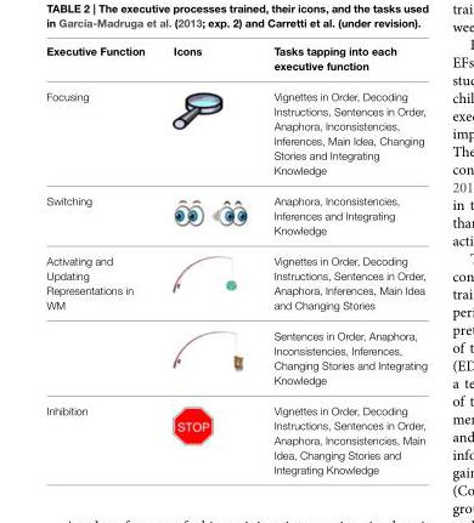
<table><thead><tr><td>Executive Function</td><td>Icons</td><td>Tasks tapping into each executive function</td></tr></thead><tbody><tr><td>Focusing</td><td></td><td>Vignettes in Order, Decoding Instructions, Sentences in Order, Anaphora, Inconsistencies, Inferences, Main Idea, Changing Stories and Integrating Knowledge</td></tr><tr><td>Switching</td><td></td><td>Anaphora, Inconsistencies, Inferences and Integrating Knowledge</td></tr><tr><td rowspan="2">Activating and Updating Representations in WM</td><td></td><td>Vignettes in Order, Decoding Instructions, Sentences in Order, Anaphora, Inferences, Main Idea and Changing Stories</td></tr><tr><td></td><td>Sentences in Order, Anaphora, Inconsistencies, Inferences, Changing Stories and Integrating Knowledge</td></tr><tr><td>Inhibition</td><td></td><td>Vignettes in Order, Decoding Instructions, Sentences in Order, Anaphora, Inconsistencies, Main Idea, Changing Stories and Integrating Knowledge</td></tr></tbody></table>